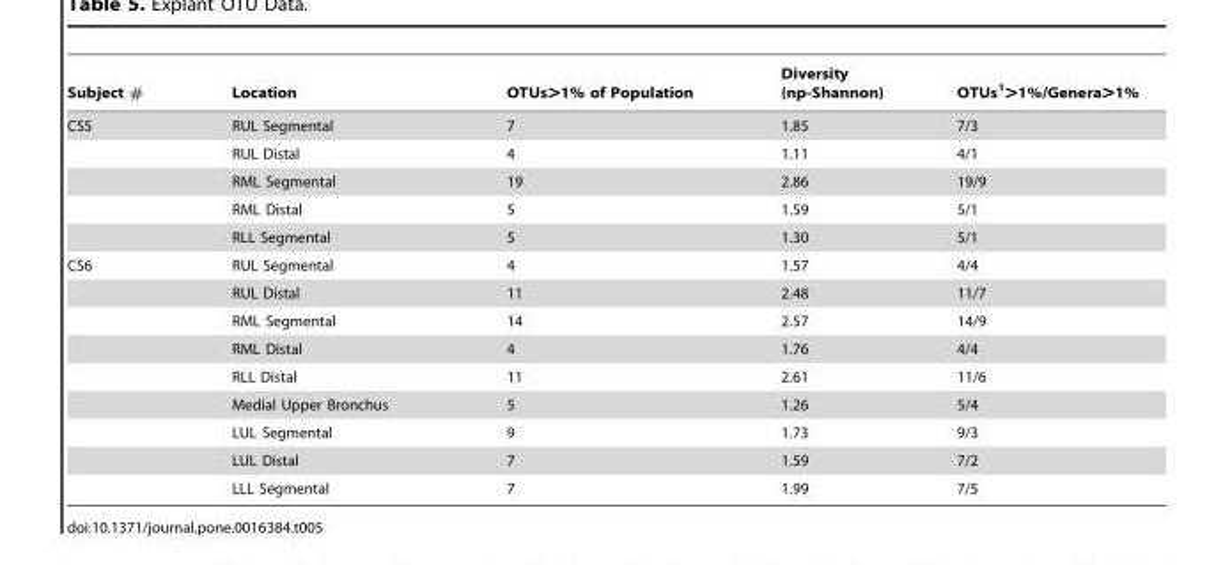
<table><thead><tr><td>Subject #</td><td>Location</td><td>OTUs&gt;1% of Population</td><td>Diversity (np-Shannon)</td><td>OTUs<sup>1</sup>&gt;1%/Genera&gt;1%</td></tr></thead><tbody><tr><td rowspan="5">CS5</td><td>RUL Segmental</td><td>7</td><td>1.85</td><td>7/3</td></tr><tr><td>RUL Distal</td><td>4</td><td>1.11</td><td>4/1</td></tr><tr><td>RML Segmental</td><td>19</td><td>2.86</td><td>19/9</td></tr><tr><td>RML Distal</td><td>5</td><td>1.59</td><td>5/1</td></tr><tr><td>RLL Segmental</td><td>5</td><td>1.30</td><td>5/1</td></tr><tr><td rowspan="9">CS6</td><td>RUL Segmental</td><td>4</td><td>1.57</td><td>4/4</td></tr><tr><td>RUL Distal</td><td>11</td><td>2.48</td><td>11/7</td></tr><tr><td>RML Segmental</td><td>14</td><td>2.57</td><td>14/9</td></tr><tr><td>RML Distal</td><td>4</td><td>1.76</td><td>4/4</td></tr><tr><td>RLL Distal</td><td>11</td><td>2.61</td><td>11/6</td></tr><tr><td>Medial Upper Bronchus</td><td>5</td><td>1.26</td><td>5/4</td></tr><tr><td>LUL Segmental</td><td>9</td><td>1.73</td><td>9/3</td></tr><tr><td>LUL Distal</td><td>7</td><td>1.59</td><td>7/2</td></tr><tr><td>LLL Segmental</td><td>7</td><td>1.99</td><td>7/5</td></tr></tbody></table>